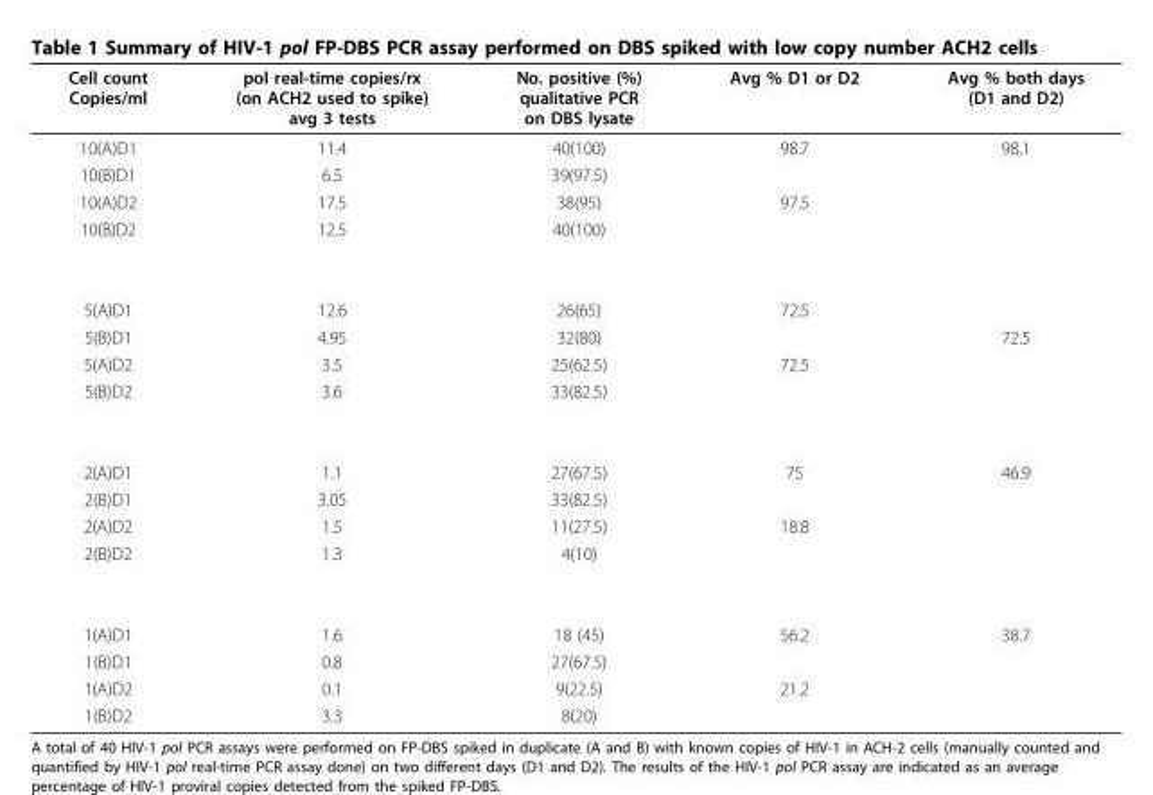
<table><thead><tr><td>Cell count Copies/ml</td><td>pol real-time copies/rx (on ACH2 used to spike) avg 3 tests</td><td>No. positive (%) qualitative PCR on DBS lysate</td><td>Avg % D1 or D2</td><td>Avg % both days (D1 and D2)</td></tr></thead><tbody><tr><td>10(A)D1</td><td>11.4</td><td>40(100)</td><td>98.7</td><td>98.1</td></tr><tr><td>10(B)D1</td><td>6.5</td><td>39(97.5)</td><td></td><td></td></tr><tr><td>10(A)D2</td><td>17.5</td><td>38(95)</td><td>97.5</td><td></td></tr><tr><td>10(B)D2</td><td>12.5</td><td>40(100)</td><td></td><td></td></tr><tr><td>5(A)D1</td><td>12.6</td><td>26(65)</td><td>72.5</td><td></td></tr><tr><td>5(B)D1</td><td>4.95</td><td>32(80)</td><td></td><td>72.5</td></tr><tr><td>5(A)D2</td><td>3.5</td><td>25(62.5)</td><td>72.5</td><td></td></tr><tr><td>5(B)D2</td><td>3.6</td><td>33(82.5)</td><td></td><td></td></tr><tr><td>2(A)D1</td><td>1.1</td><td>27(67.5)</td><td>75</td><td>46.9</td></tr><tr><td>2(B)D1</td><td>3.05</td><td>33(82.5)</td><td></td><td></td></tr><tr><td>2(A)D2</td><td>1.5</td><td>11(27.5)</td><td>18.8</td><td></td></tr><tr><td>2(B)D2</td><td>1.3</td><td>4(10)</td><td></td><td></td></tr><tr><td>1(A)D1</td><td>1.6</td><td>18 (45)</td><td>56.2</td><td>38.7</td></tr><tr><td>1(B)D1</td><td>0.8</td><td>27(67.5)</td><td></td><td></td></tr><tr><td>1(A)D2</td><td>0.1</td><td>9(22.5)</td><td>21.2</td><td></td></tr><tr><td>1(B)D2</td><td>3.3</td><td>8(20)</td><td></td><td></td></tr></tbody></table>